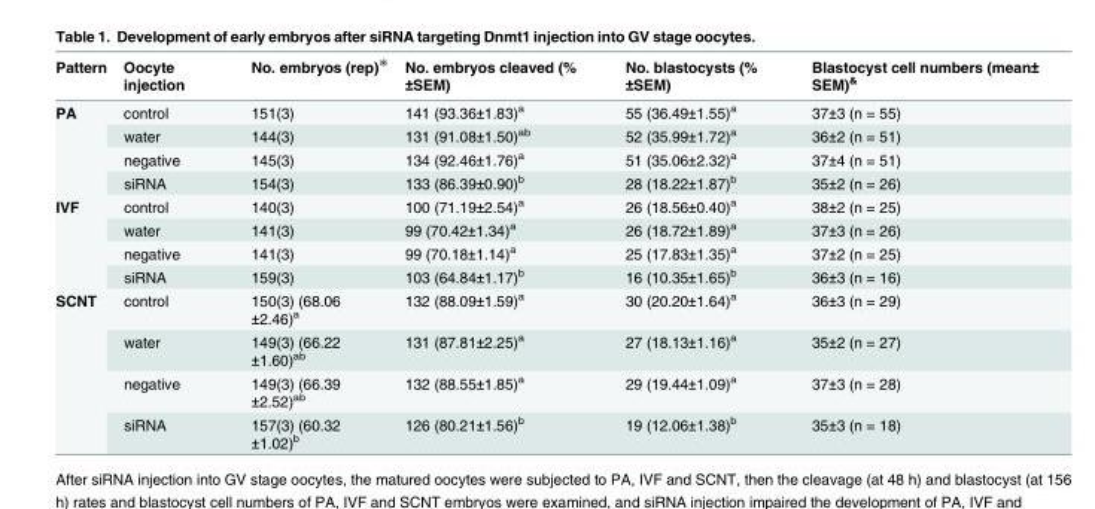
<table><thead><tr><td>Pattern</td><td>Oocyte injection</td><td>No. embryos (rep)<sup>※</sup></td><td>No. embryos cleaved (% ±SEM)</td><td>No. blastocysts (% ±SEM)</td><td>Blastocyst cell numbers (mean± SEM)<sup>&amp;</sup></td></tr></thead><tbody><tr><td rowspan="4">PA</td><td>control</td><td>151(3)</td><td>141 (93.36±1.83)<sup>a</sup></td><td>55 (36.49±1.55)<sup>a</sup></td><td>37±3 (n = 55)</td></tr><tr><td>water</td><td>144(3)</td><td>131 (91.08±1.50)<sup>ab</sup></td><td>52 (35.99±1.72)<sup>a</sup></td><td>36±2 (n = 51)</td></tr><tr><td>negative</td><td>145(3)</td><td>134 (92.46±1.76)<sup>a</sup></td><td>51 (35.06±2.32)<sup>a</sup></td><td>37±4 (n = 51)</td></tr><tr><td>siRNA</td><td>154(3)</td><td>133 (86.39±0.90)<sup>b</sup></td><td>28 (18.22±1.87)<sup>b</sup></td><td>35±2 (n = 26)</td></tr><tr><td rowspan="4">IVF</td><td>control</td><td>140(3)</td><td>100 (71.19±2.54)<sup>a</sup></td><td>26 (18.56±0.40)<sup>a</sup></td><td>38±2 (n = 25)</td></tr><tr><td>water</td><td>141(3)</td><td>99 (70.42±1.34)<sup>a</sup></td><td>26 (18.72±1.89)<sup>a</sup></td><td>37±3 (n = 26)</td></tr><tr><td>negative</td><td>141(3)</td><td>99 (70.18±1.14)<sup>a</sup></td><td>25 (17.83±1.35)<sup>a</sup></td><td>37±2 (n = 25)</td></tr><tr><td>siRNA</td><td>159(3)</td><td>103 (64.84±1.17)<sup>b</sup></td><td>16 (10.35±1.65)<sup>b</sup></td><td>36±3 (n = 16)</td></tr><tr><td rowspan="4">SCNT</td><td>control</td><td>150(3) (68.06 ±2.46)<sup>a</sup></td><td>132 (88.09±1.59)<sup>a</sup></td><td>30 (20.20±1.64)<sup>a</sup></td><td>36±3 (n = 29)</td></tr><tr><td>water</td><td>149(3) (66.22 ±1.60)<sup>ab</sup></td><td>131 (87.81±2.25)<sup>a</sup></td><td>27 (18.13±1.16)<sup>a</sup></td><td>35±2 (n = 27)</td></tr><tr><td>negative</td><td>149(3) (66.39 ±2.52)<sup>ab</sup></td><td>132 (88.55±1.85)<sup>a</sup></td><td>29 (19.44±1.09)<sup>a</sup></td><td>37±3 (n = 28)</td></tr><tr><td>siRNA</td><td>157(3) (60.32 ±1.02)<sup>b</sup></td><td>126 (80.21±1.56)<sup>b</sup></td><td>19 (12.06±1.38)<sup>b</sup></td><td>35±3 (n = 18)</td></tr></tbody></table>